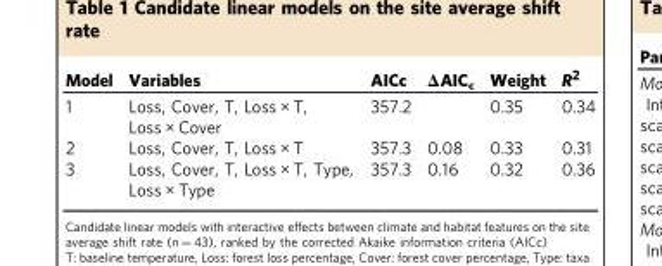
<table><thead><tr><td>Model</td><td>Variables</td><td>AICc</td><td>ΔAIC<sub>c</sub></td><td>Weight</td><td>R<sup>2</sup></td></tr></thead><tbody><tr><td>1</td><td>Loss, Cover, T, Loss × T, Loss × Cover</td><td>357.2</td><td></td><td>0.35</td><td>0.34</td></tr><tr><td>2</td><td>Loss, Cover, T, Loss × T</td><td>357.3</td><td>0.08</td><td>0.33</td><td>0.31</td></tr><tr><td>3</td><td>Loss, Cover, T, Loss × T, Type, Loss × Type</td><td>357.3</td><td>0.16</td><td>0.32</td><td>0.36</td></tr></tbody></table>